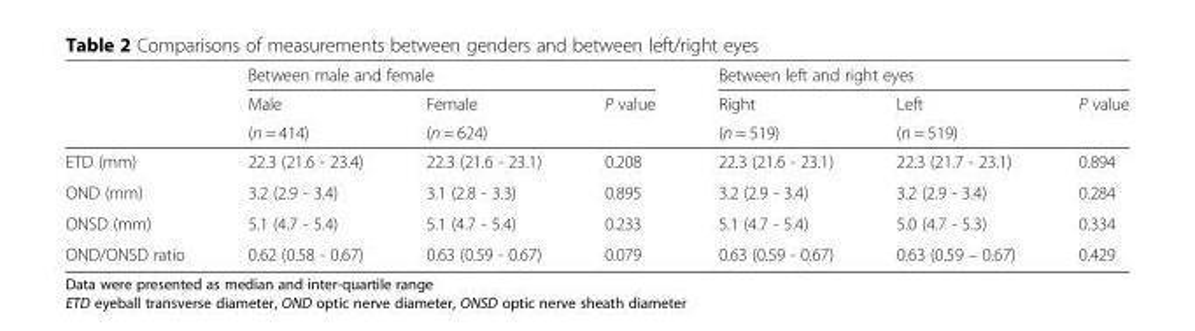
<table><thead><tr><td rowspan="3"></td><td colspan="3">Between male and female</td><td colspan="3">Between left and right eyes</td></tr><tr><td rowspan="2">Male (n = 414)</td><td rowspan="2">Female (n = 624)</td><td rowspan="2">P value</td><td rowspan="2">Right (n = 519)</td><td rowspan="2">Left (n = 519)</td><td rowspan="2">P value</td></tr><tr></tr></thead><tbody><tr><td>ETD (mm)</td><td>22.3 (21.6 - 23.4)</td><td>22.3 (21.6 - 23.1)</td><td>0.208</td><td>22.3 (21.6 - 23.1)</td><td>22.3 (21.7 - 23.1)</td><td>0.894</td></tr><tr><td>OND (mm)</td><td>3.2 (2.9 - 3.4)</td><td>3.1 (2.8 - 3.3)</td><td>0.895</td><td>3.2 (2.9 - 3.4)</td><td>3.2 (2.9 - 3.4)</td><td>0.284</td></tr><tr><td>ONSD (mm)</td><td>5.1 (4.7 - 5.4)</td><td>5.1 (4.7 - 5.4)</td><td>0.233</td><td>5.1 (4.7 - 5.4)</td><td>5.0 (4.7 - 5.3)</td><td>0.334</td></tr><tr><td>OND/ONSD ratio</td><td>0.62 (0.58 - 0.67)</td><td>0.63 (0.59 - 0.67)</td><td>0.079</td><td>0.63 (0.59 - 0.67)</td><td>0.63 (0.59 – 0.67)</td><td>0.429</td></tr></tbody></table>